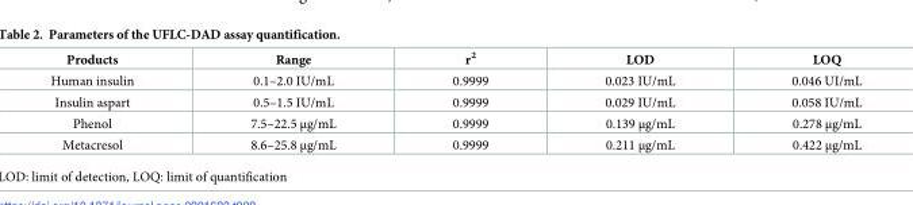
<table><thead><tr><td>Products</td><td>Range</td><td>r<sup>2</sup></td><td>LOD</td><td>LOQ</td></tr></thead><tbody><tr><td>Human insulin</td><td>0.1–2.0 IU/mL</td><td>0.9999</td><td>0.023 IU/mL</td><td>0.046 UI/mL</td></tr><tr><td>Insulin aspart</td><td>0.5–1.5 IU/mL</td><td>0.9999</td><td>0.029 IU/mL</td><td>0.058 IU/mL</td></tr><tr><td>Phenol</td><td>7.5–22.5 μg/mL</td><td>0.9999</td><td>0.139 μg/mL</td><td>0.278 μg/mL</td></tr><tr><td>Metacresol</td><td>8.6–25.8 μg/mL</td><td>0.9999</td><td>0.211 μg/mL</td><td>0.422 μg/mL</td></tr></tbody></table>